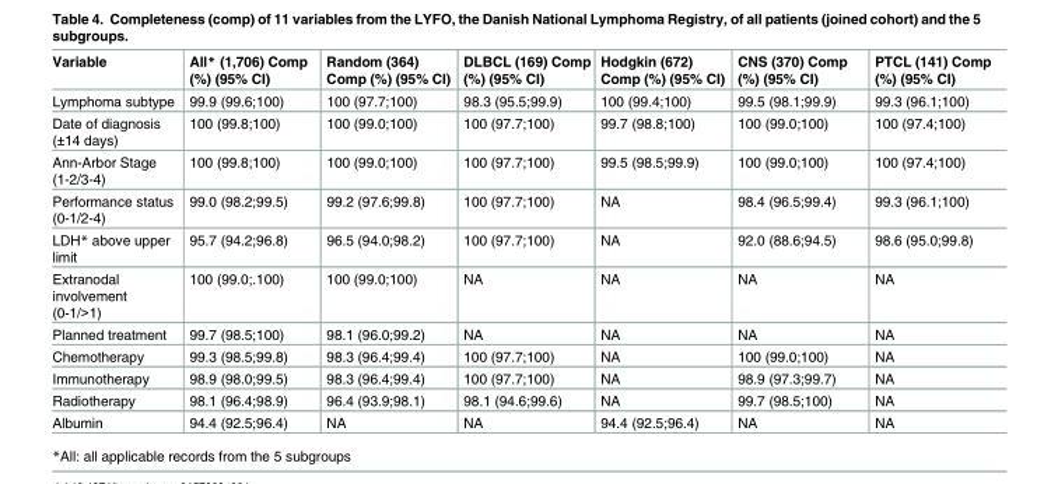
<table><thead><tr><td>Variable</td><td>All* (1,706) Comp (%) (95% CI)</td><td>Random (364) Comp (%) (95% CI)</td><td>DLBCL (169) Comp (%) (95% CI)</td><td>Hodgkin (672) Comp (%) (95% CI)</td><td>CNS (370) Comp (%) (95% CI)</td><td>PTCL (141) Comp (%) (95% CI)</td></tr></thead><tbody><tr><td>Lymphoma subtype</td><td>99.9 (99.6;100)</td><td>100 (97.7;100)</td><td>98.3 (95.5;99.9)</td><td>100 (99.4;100)</td><td>99.5 (98.1;99.9)</td><td>99.3 (96.1;100)</td></tr><tr><td>Date of diagnosis (±14 days)</td><td>100 (99.8;100)</td><td>100 (99.0;100)</td><td>100 (97.7;100)</td><td>99.7 (98.8;100)</td><td>100 (99.0;100)</td><td>100 (97.4;100)</td></tr><tr><td>Ann-Arbor Stage (1-2/3-4)</td><td>100 (99.8;100)</td><td>100 (99.0;100)</td><td>100 (97.7;100)</td><td>99.5 (98.5;99.9)</td><td>100 (99.0;100)</td><td>100 (97.4;100)</td></tr><tr><td>Performance status (0-1/2-4)</td><td>99.0 (98.2;99.5)</td><td>99.2 (97.6;99.8)</td><td>100 (97.7;100)</td><td>NA</td><td>98.4 (96.5;99.4)</td><td>99.3 (96.1;100)</td></tr><tr><td>LDH* above upper limit</td><td>95.7 (94.2;96.8)</td><td>96.5 (94.0;98.2)</td><td>100 (97.7;100)</td><td>NA</td><td>92.0 (88.6;94.5)</td><td>98.6 (95.0;99.8)</td></tr><tr><td>Extranodal involvement (0-1/&gt;1)</td><td>100 (99.0;.100)</td><td>100 (99.0;100)</td><td>NA</td><td>NA</td><td>NA</td><td>NA</td></tr><tr><td>Planned treatment</td><td>99.7 (98.5;100)</td><td>98.1 (96.0;99.2)</td><td>NA</td><td>NA</td><td>NA</td><td>NA</td></tr><tr><td>Chemotherapy</td><td>99.3 (98.5;99.8)</td><td>98.3 (96.4;99.4)</td><td>100 (97.7;100)</td><td>NA</td><td>100 (99.0;100)</td><td>NA</td></tr><tr><td>Immunotherapy</td><td>98.9 (98.0;99.5)</td><td>98.3 (96.4;99.4)</td><td>100 (97.7;100)</td><td>NA</td><td>98.9 (97.3;99.7)</td><td>NA</td></tr><tr><td>Radiotherapy</td><td>98.1 (96.4;98.9)</td><td>96.4 (93.9;98.1)</td><td>98.1 (94.6;99.6)</td><td>NA</td><td>99.7 (98.5;100)</td><td>NA</td></tr><tr><td>Albumin</td><td>94.4 (92.5;96.4)</td><td>NA</td><td>NA</td><td>94.4 (92.5;96.4)</td><td>NA</td><td>NA</td></tr></tbody></table>